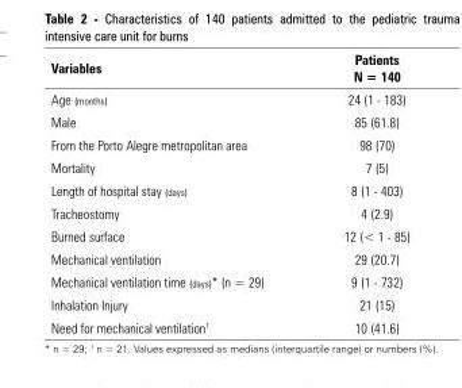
<table><thead><tr><td>Variables</td><td>Patients N = 140</td></tr></thead><tbody><tr><td>Age (months)</td><td>24 (1 - 183)</td></tr><tr><td>Male</td><td>85 (61.8)</td></tr><tr><td>From the Porto Alegre metropolitan area</td><td>98 (70)</td></tr><tr><td>Mortality</td><td>7 (5)</td></tr><tr><td>Length of hospital stay (days)</td><td>8 (1 - 403)</td></tr><tr><td>Tracheostomy</td><td>4 (2.9)</td></tr><tr><td>Burned surface</td><td>12 (&lt; 1 - 85)</td></tr><tr><td>Mechanical ventilation</td><td>29 (20.7)</td></tr><tr><td>Mechanical ventilation time (days)* (n = 29)</td><td>9 (1 - 732)</td></tr><tr><td>Inhalation Injury</td><td>21 (15)</td></tr><tr><td>Need for mechanical ventilation†</td><td>10 (41.6)</td></tr></tbody></table>